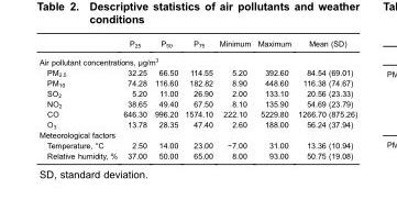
<table><thead><tr><td></td><td>P<sub>25</sub></td><td>P<sub>50</sub></td><td>P<sub>75</sub></td><td>Minimum</td><td>Maximum</td><td>Mean (SD)</td></tr></thead><tbody><tr><td colspan="7">Air pollutant concentrations, µg/m<sup>3</sup></td></tr><tr><td>PM<sub>2.5</sub></td><td>32.25</td><td>66.50</td><td>114.55</td><td>5.20</td><td>392.60</td><td>84.54 (69.01)</td></tr><tr><td>PM<sub>10</sub></td><td>74.28</td><td>116.60</td><td>182.82</td><td>8.90</td><td>448.60</td><td>116.38 (74.67)</td></tr><tr><td>SO<sub>2</sub></td><td>5.20</td><td>11.00</td><td>26.90</td><td>2.00</td><td>133.10</td><td>20.56 (23.33)</td></tr><tr><td>NO<sub>2</sub></td><td>38.65</td><td>49.40</td><td>67.50</td><td>8.10</td><td>135.90</td><td>54.69 (23.79)</td></tr><tr><td>CO</td><td>646.30</td><td>996.20</td><td>1574.10</td><td>222.10</td><td>5229.80</td><td>1266.70 (875.26)</td></tr><tr><td>O<sub>3</sub></td><td>13.78</td><td>28.35</td><td>47.40</td><td>2.60</td><td>188.00</td><td>56.24 (37.94)</td></tr><tr><td colspan="7">Meteorological factors</td></tr><tr><td>Temperature, °C</td><td>2.50</td><td>14.00</td><td>23.00</td><td>−7.00</td><td>31.00</td><td>13.36 (10.94)</td></tr><tr><td>Relative humidity, %</td><td>37.00</td><td>50.00</td><td>65.00</td><td>8.00</td><td>93.00</td><td>50.75 (19.08)</td></tr></tbody></table>